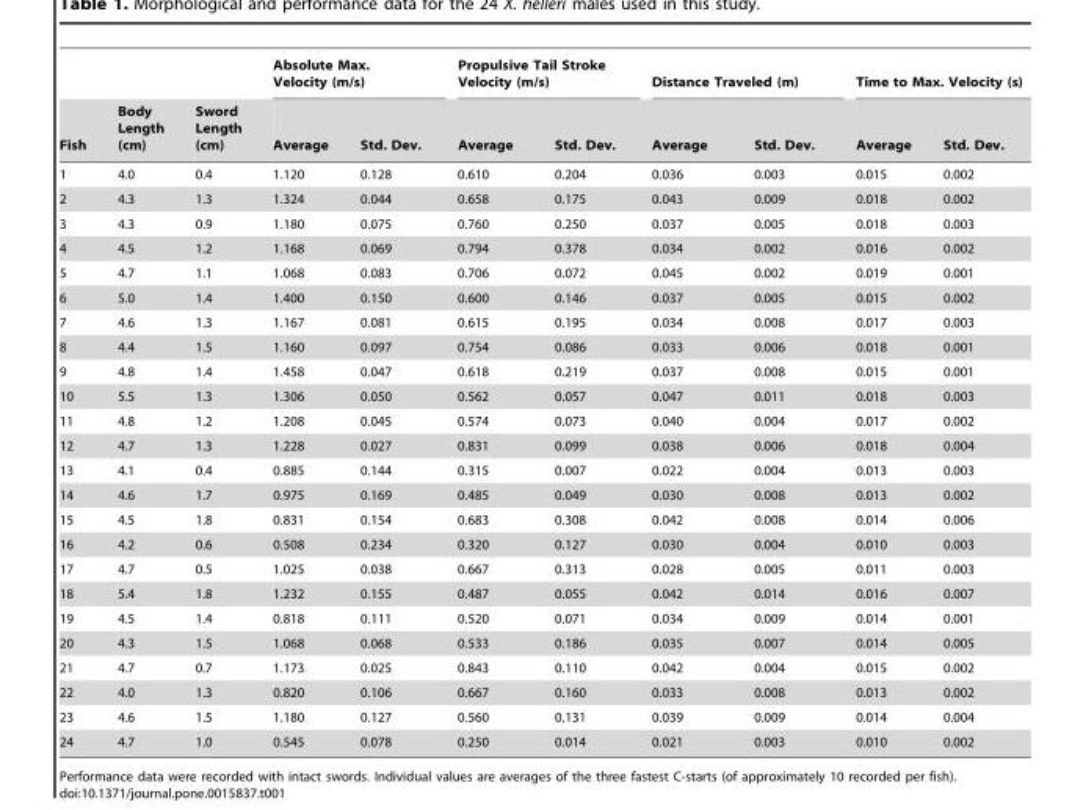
<table><thead><tr><td rowspan="2">Fish</td><td rowspan="2">Body Length (cm)</td><td rowspan="2">Sword Length (cm)</td><td colspan="2">Absolute Max. Velocity (m/s)</td><td colspan="2">Propulsive Tail Stroke Velocity (m/s)</td><td colspan="2">Distance Traveled (m)</td><td colspan="2">Time to Max. Velocity (s)</td></tr><tr><td>Average</td><td>Std. Dev.</td><td>Average</td><td>Std. Dev.</td><td>Average</td><td>Std. Dev.</td><td>Average</td><td>Std. Dev.</td></tr></thead><tbody><tr><td>1</td><td>4.0</td><td>0.4</td><td>1.120</td><td>0.128</td><td>0.610</td><td>0.204</td><td>0.036</td><td>0.003</td><td>0.015</td><td>0.002</td></tr><tr><td>2</td><td>4.3</td><td>1.3</td><td>1.324</td><td>0.044</td><td>0.658</td><td>0.175</td><td>0.043</td><td>0.009</td><td>0.018</td><td>0.002</td></tr><tr><td>3</td><td>4.3</td><td>0.9</td><td>1.180</td><td>0.075</td><td>0.760</td><td>0.250</td><td>0.037</td><td>0.005</td><td>0.018</td><td>0.003</td></tr><tr><td>4</td><td>4.5</td><td>1.2</td><td>1.168</td><td>0.069</td><td>0.794</td><td>0.378</td><td>0.034</td><td>0.002</td><td>0.016</td><td>0.002</td></tr><tr><td>5</td><td>4.7</td><td>1.1</td><td>1.068</td><td>0.083</td><td>0.706</td><td>0.072</td><td>0.045</td><td>0.002</td><td>0.019</td><td>0.001</td></tr><tr><td>6</td><td>5.0</td><td>1.4</td><td>1.400</td><td>0.150</td><td>0.600</td><td>0.146</td><td>0.037</td><td>0.005</td><td>0.015</td><td>0.002</td></tr><tr><td>7</td><td>4.6</td><td>1.3</td><td>1.167</td><td>0.081</td><td>0.615</td><td>0.195</td><td>0.034</td><td>0.008</td><td>0.017</td><td>0.003</td></tr><tr><td>8</td><td>4.4</td><td>1.5</td><td>1.160</td><td>0.097</td><td>0.754</td><td>0.086</td><td>0.033</td><td>0.006</td><td>0.018</td><td>0.001</td></tr><tr><td>9</td><td>4.8</td><td>1.4</td><td>1.458</td><td>0.047</td><td>0.618</td><td>0.219</td><td>0.037</td><td>0.008</td><td>0.015</td><td>0.001</td></tr><tr><td>10</td><td>5.5</td><td>1.3</td><td>1.306</td><td>0.050</td><td>0.562</td><td>0.057</td><td>0.047</td><td>0.011</td><td>0.018</td><td>0.003</td></tr><tr><td>11</td><td>4.8</td><td>1.2</td><td>1.208</td><td>0.045</td><td>0.574</td><td>0.073</td><td>0.040</td><td>0.004</td><td>0.017</td><td>0.002</td></tr><tr><td>12</td><td>4.7</td><td>1.3</td><td>1.228</td><td>0.027</td><td>0.831</td><td>0.099</td><td>0.038</td><td>0.006</td><td>0.018</td><td>0.004</td></tr><tr><td>13</td><td>4.1</td><td>0.4</td><td>0.885</td><td>0.144</td><td>0.315</td><td>0.007</td><td>0.022</td><td>0.004</td><td>0.013</td><td>0.003</td></tr><tr><td>14</td><td>4.6</td><td>1.7</td><td>0.975</td><td>0.169</td><td>0.485</td><td>0.049</td><td>0.030</td><td>0.008</td><td>0.013</td><td>0.002</td></tr><tr><td>15</td><td>4.5</td><td>1.8</td><td>0.831</td><td>0.154</td><td>0.683</td><td>0.308</td><td>0.042</td><td>0.008</td><td>0.014</td><td>0.006</td></tr><tr><td>16</td><td>4.2</td><td>0.6</td><td>0.508</td><td>0.234</td><td>0.320</td><td>0.127</td><td>0.030</td><td>0.004</td><td>0.010</td><td>0.003</td></tr><tr><td>17</td><td>4.7</td><td>0.5</td><td>1.025</td><td>0.038</td><td>0.667</td><td>0.313</td><td>0.028</td><td>0.005</td><td>0.011</td><td>0.003</td></tr><tr><td>18</td><td>5.4</td><td>1.8</td><td>1.232</td><td>0.155</td><td>0.487</td><td>0.055</td><td>0.042</td><td>0.014</td><td>0.016</td><td>0.007</td></tr><tr><td>19</td><td>4.5</td><td>1.4</td><td>0.818</td><td>0.111</td><td>0.520</td><td>0.071</td><td>0.034</td><td>0.009</td><td>0.014</td><td>0.001</td></tr><tr><td>20</td><td>4.3</td><td>1.5</td><td>1.068</td><td>0.068</td><td>0.533</td><td>0.186</td><td>0.035</td><td>0.007</td><td>0.014</td><td>0.005</td></tr><tr><td>21</td><td>4.7</td><td>0.7</td><td>1.173</td><td>0.025</td><td>0.843</td><td>0.110</td><td>0.042</td><td>0.004</td><td>0.015</td><td>0.002</td></tr><tr><td>22</td><td>4.0</td><td>1.3</td><td>0.820</td><td>0.106</td><td>0.667</td><td>0.160</td><td>0.033</td><td>0.008</td><td>0.013</td><td>0.002</td></tr><tr><td>23</td><td>4.6</td><td>1.5</td><td>1.180</td><td>0.127</td><td>0.560</td><td>0.131</td><td>0.039</td><td>0.009</td><td>0.014</td><td>0.004</td></tr><tr><td>24</td><td>4.7</td><td>1.0</td><td>0.545</td><td>0.078</td><td>0.250</td><td>0.014</td><td>0.021</td><td>0.003</td><td>0.010</td><td>0.002</td></tr></tbody></table>